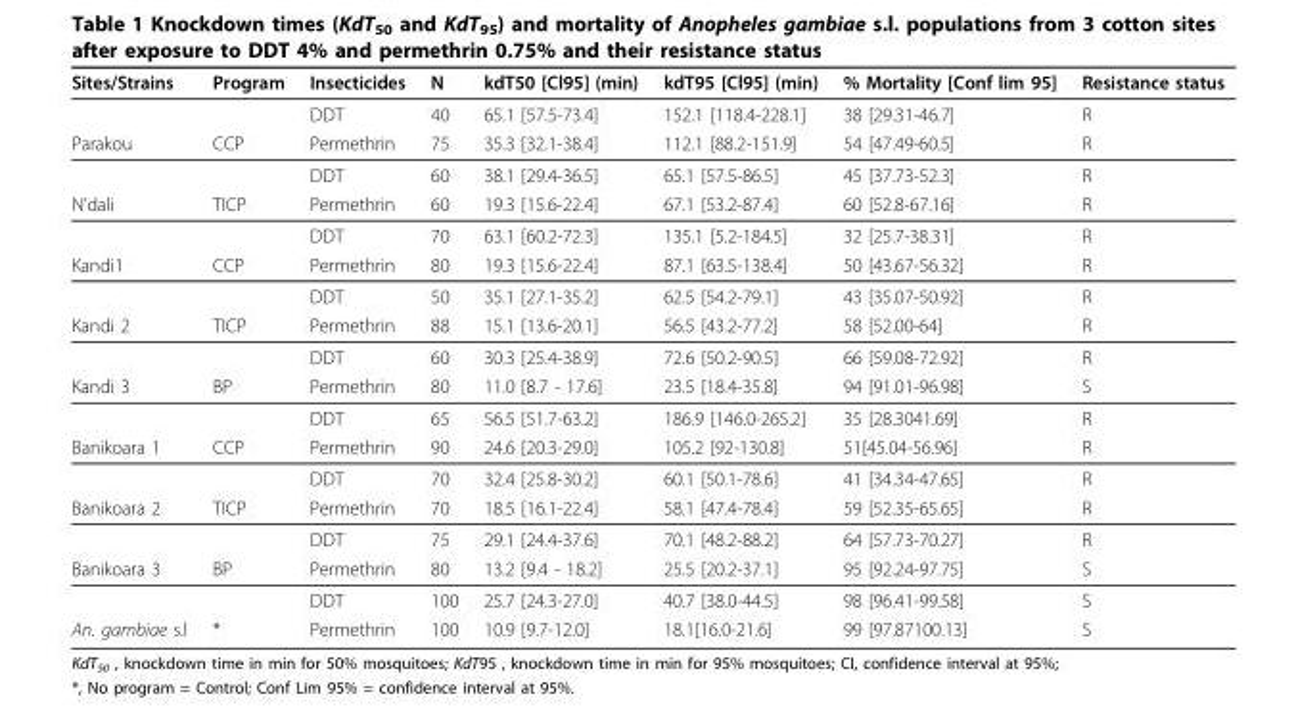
<table><thead><tr><td>Sites/Strains</td><td>Program</td><td>Insecticides</td><td>N</td><td>kdT50 [Cl95] (min)</td><td>kdT95 [Cl95] (min)</td><td>% Mortality [Conf lim 95]</td><td>Resistance status</td></tr></thead><tbody><tr><td></td><td></td><td>DDT</td><td>40</td><td>65.1 [57.5-73.4]</td><td>152.1 [118.4-228.1]</td><td>38 [29.31-46.7]</td><td>R</td></tr><tr><td rowspan="2">Parakou</td><td>CCP</td><td>Permethrin</td><td>75</td><td>35.3 [32.1-38.4]</td><td>112.1 [88.2-151.9]</td><td>54 [47.49-60.5]</td><td>R</td></tr><tr><td></td><td>DDT</td><td>60</td><td>38.1 [29.4-36.5]</td><td>65.1 [57.5-86.5]</td><td>45 [37.73-52.3]</td><td>R</td></tr><tr><td rowspan="2">N’dali</td><td>TICP</td><td>Permethrin</td><td>60</td><td>19.3 [15.6-22.4]</td><td>67.1 [53.2-87.4]</td><td>60 [52.8-67.16]</td><td>R</td></tr><tr><td></td><td>DDT</td><td>70</td><td>63.1 [60.2-72.3]</td><td>135.1 [5.2-184.5]</td><td>32 [25.7-38.31]</td><td>R</td></tr><tr><td rowspan="2">Kandi1</td><td>CCP</td><td>Permethrin</td><td>80</td><td>19.3 [15.6-22.4]</td><td>87.1 [63.5-138.4]</td><td>50 [43.67-56.32]</td><td>R</td></tr><tr><td></td><td>DDT</td><td>50</td><td>35.1 [27.1-35.2]</td><td>62.5 [54.2-79.1]</td><td>43 [35.07-50.92]</td><td>R</td></tr><tr><td rowspan="2">Kandi 2</td><td>TICP</td><td>Permethrin</td><td>88</td><td>15.1 [13.6-20.1]</td><td>56.5 [43.2-77.2]</td><td>58 [52.00-64]</td><td>R</td></tr><tr><td></td><td>DDT</td><td>60</td><td>30.3 [25.4-38.9]</td><td>72.6 [50.2-90.5]</td><td>66 [59.08-72.92]</td><td>R</td></tr><tr><td rowspan="2">Kandi 3</td><td>BP</td><td>Permethrin</td><td>80</td><td>11.0 [8.7 - 17.6]</td><td>23.5 [18.4-35.8]</td><td>94 [91.01-96.98]</td><td>S</td></tr><tr><td></td><td>DDT</td><td>65</td><td>56.5 [51.7-63.2]</td><td>186.9 [146.0-265.2]</td><td>35 [28.3041.69]</td><td>R</td></tr><tr><td rowspan="2">Banikoara 1</td><td>CCP</td><td>Permethrin</td><td>90</td><td>24.6 [20.3-29.0]</td><td>105.2 [92-130.8]</td><td>51[45.04-56.96]</td><td>R</td></tr><tr><td></td><td>DDT</td><td>70</td><td>32.4 [25.8-30.2]</td><td>60.1 [50.1-78.6]</td><td>41 [34.34-47.65]</td><td>R</td></tr><tr><td rowspan="2">Banikoara 2</td><td>TICP</td><td>Permethrin</td><td>70</td><td>18.5 [16.1-22.4]</td><td>58.1 [47.4-78.4]</td><td>59 [52.35-65.65]</td><td>R</td></tr><tr><td></td><td>DDT</td><td>75</td><td>29.1 [24.4-37.6]</td><td>70.1 [48.2-88.2]</td><td>64 [57.73-70.27]</td><td>R</td></tr><tr><td rowspan="2">Banikoara 3</td><td>BP</td><td>Permethrin</td><td>80</td><td>13.2 [9.4 - 18.2]</td><td>25.5 [20.2-37.1]</td><td>95 [92.24-97.75]</td><td>S</td></tr><tr><td></td><td>DDT</td><td>100</td><td>25.7 [24.3-27.0]</td><td>40.7 [38.0-44.5]</td><td>98 [96.41-99.58]</td><td>S</td></tr><tr><td>An. gambiae s.l</td><td>*</td><td>Permethrin</td><td>100</td><td>10.9 [9.7-12.0]</td><td>18.1[16.0-21.6]</td><td>99 [97.87100.13]</td><td>S</td></tr></tbody></table>